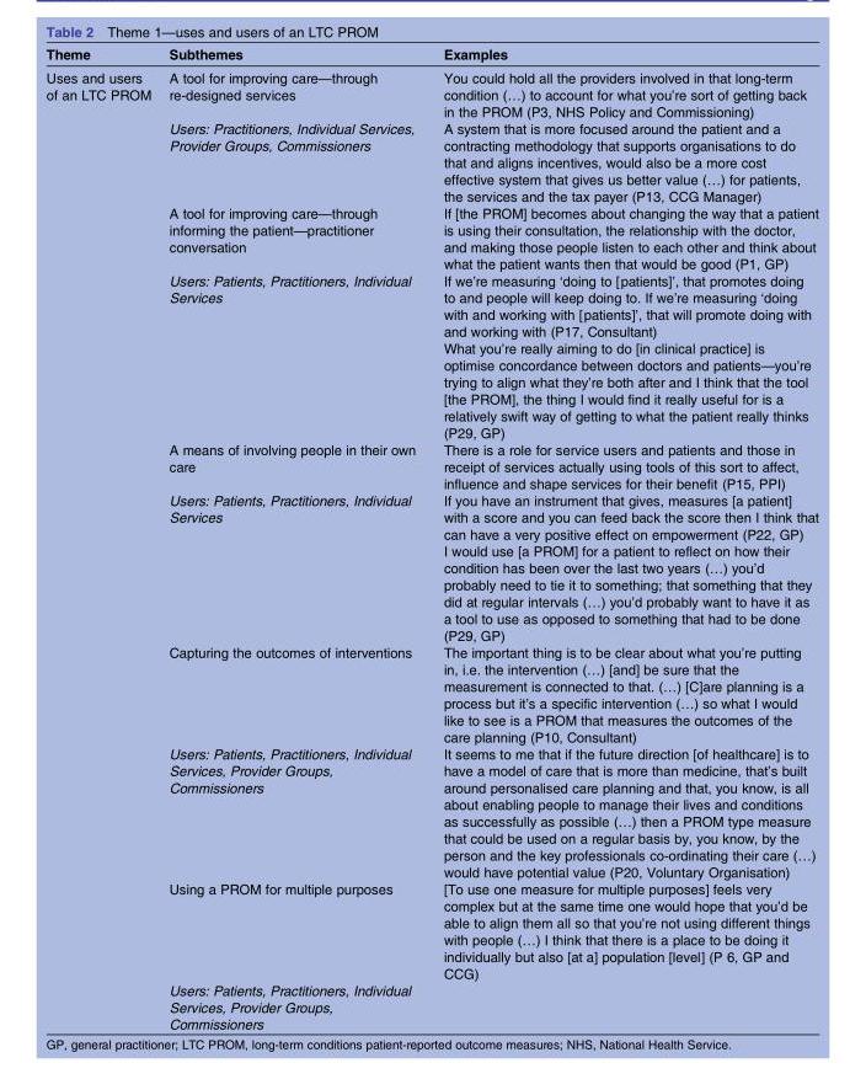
<table><thead><tr><td>Theme</td><td>Subthemes</td><td>Examples</td></tr></thead><tbody><tr><td rowspan="12">Uses and users of an LTC PROM</td><td>A tool for improving care—through re-designed services</td><td>You could hold all the providers involved in that long-term condition (…) to account for what you’re sort of getting back in the PROM (P3, NHS Policy and Commissioning)</td></tr><tr><td>Users: Practitioners, Individual Services, Provider Groups, Commissioners</td><td>A system that is more focused around the patient and a contracting methodology that supports organisations to do that and aligns incentives, would also be a more cost effective system that gives us better value (…) for patients, the services and the tax payer (P13, CCG Manager)</td></tr><tr><td>A tool for improving care—through informing the patient—practitioner conversation</td><td>If [the PROM] becomes about changing the way that a patient is using their consultation, the relationship with the doctor, and making those people listen to each other and think about what the patient wants then that would be good (P1, GP)</td></tr><tr><td rowspan="2">Users: Patients, Practitioners, Individual Services</td><td>If we’re measuring ‘doing to [patients]’, that promotes doing to and people will keep doing to. If we’re measuring ‘doing with and working with [patients]’, that will promote doing with and working with (P17, Consultant)</td></tr><tr><td>What you’re really aiming to do [in clinical practice] is optimise concordance between doctors and patients—you’re trying to align what they’re both after and I think that the tool [the PROM], the thing I would find it really useful for is a relatively swift way of getting to what the patient really thinks (P29, GP)</td></tr><tr><td>A means of involving people in their own care</td><td>There is a role for service users and patients and those in receipt of services actually using tools of this sort to affect, influence and shape services for their benefit (P15, PPI)</td></tr><tr><td rowspan="2">Users: Patients, Practitioners, Individual Services</td><td>If you have an instrument that gives, measures [a patient] with a score and you can feed back the score then I think that can have a very positive effect on empowerment (P22, GP)</td></tr><tr><td>I would use [a PROM] for a patient to reflect on how their condition has been over the last two years (…) you’d probably need to tie it to something; that something that they did at regular intervals (…) you’d probably want to have it as a tool to use as opposed to something that had to be done (P29, GP)</td></tr><tr><td>Capturing the outcomes of interventions</td><td>The important thing is to be clear about what you’re putting in, i.e. the intervention (…) [and] be sure that the measurement is connected to that. (…) [C]are planning is a process but it’s a specific intervention (…) so what I would like to see is a PROM that measures the outcomes of the care planning (P10, Consultant)</td></tr><tr><td>Users: Patients, Practitioners, Individual Services, Provider Groups, Commissioners</td><td>It seems to me that if the future direction [of healthcare] is to have a model of care that is more than medicine, that’s built around personalised care planning and that, you know, is all about enabling people to manage their lives and conditions as successfully as possible (…) then a PROM type measure that could be used on a regular basis by, you know, by the person and the key professionals co-ordinating their care (…) would have potential value (P20, Voluntary Organisation)</td></tr><tr><td>Using a PROM for multiple purposes</td><td>[To use one measure for multiple purposes] feels very complex but at the same time one would hope that you’d be able to align them all so that you’re not using different things with people (…) I think that there is a place to be doing it individually but also [at a] population [level] (P 6, GP and CCG)</td></tr><tr><td>Users: Patients, Practitioners, Individual Services, Provider Groups, Commissioners</td><td></td></tr></tbody></table>